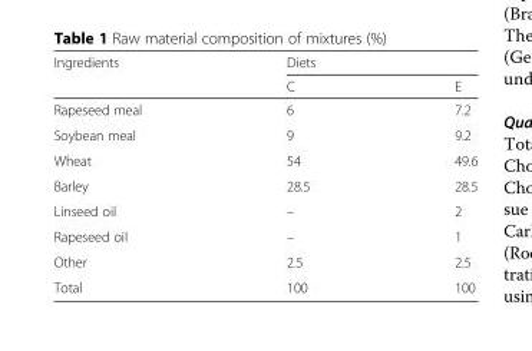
<table><thead><tr><td rowspan="2">Ingredients</td><td colspan="2">Diets</td></tr><tr><td>C</td><td>E</td></tr></thead><tbody><tr><td>Rapeseed meal</td><td>6</td><td>7.2</td></tr><tr><td>Soybean meal</td><td>9</td><td>9.2</td></tr><tr><td>Wheat</td><td>54</td><td>49.6</td></tr><tr><td>Barley</td><td>28.5</td><td>28.5</td></tr><tr><td>Linseed oil</td><td>–</td><td>2</td></tr><tr><td>Rapeseed oil</td><td>–</td><td>1</td></tr><tr><td>Other</td><td>2.5</td><td>2.5</td></tr><tr><td>Total</td><td>100</td><td>100</td></tr></tbody></table>